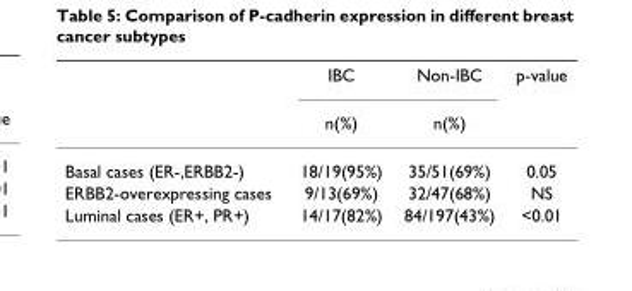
<table><thead><tr><td rowspan="2"></td><td rowspan="2">IBC n(%)</td><td rowspan="2">Non-IBC n(%)</td><td rowspan="2">p-value</td></tr><tr></tr></thead><tbody><tr><td>Basal cases (ER-,ERBB2-)</td><td>18/19(95%)</td><td>35/51(69%)</td><td>0.05</td></tr><tr><td>ERBB2-overexpressing cases</td><td>9/13(69%)</td><td>32/47(68%)</td><td>NS</td></tr><tr><td>Luminal cases (ER+, PR+)</td><td>14/17(82%)</td><td>84/197(43%)</td><td>&lt;0.01</td></tr></tbody></table>